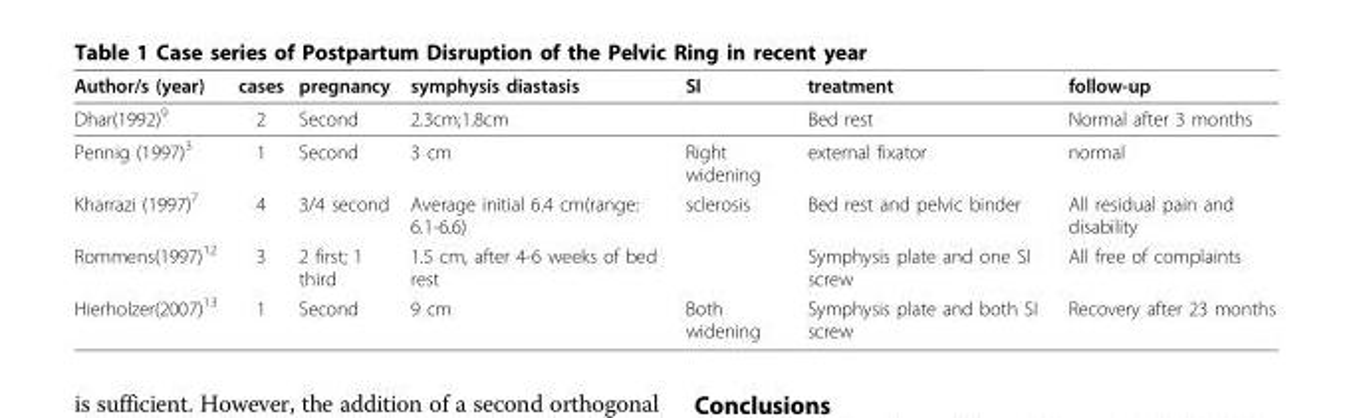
<table><thead><tr><td>Author/s (year)</td><td>cases</td><td>pregnancy</td><td>symphysis diastasis</td><td>SI</td><td>treatment</td><td>follow-up</td></tr></thead><tbody><tr><td>Dhar(1992)<sup>9</sup></td><td>2</td><td>Second</td><td>2.3cm;1.8cm</td><td></td><td>Bed rest</td><td>Normal after 3 months</td></tr><tr><td>Pennig (1997)<sup>3</sup></td><td>1</td><td>Second</td><td>3 cm</td><td>Right widening</td><td>external fixator</td><td>normal</td></tr><tr><td>Kharrazi (1997)<sup>7</sup></td><td>4</td><td>3/4 second</td><td>Average initial 6.4 cm(range: 6.1-6.6)</td><td>sclerosis</td><td>Bed rest and pelvic binder</td><td>All residual pain and disability</td></tr><tr><td>Rommens(1997)<sup>12</sup></td><td>3</td><td>2 first; 1 third</td><td>1.5 cm, after 4-6 weeks of bed rest</td><td></td><td>Symphysis plate and one SI screw</td><td>All free of complaints</td></tr><tr><td>Hierholzer(2007)<sup>13</sup></td><td>1</td><td>Second</td><td>9 cm</td><td>Both widening</td><td>Symphysis plate and both SI screw</td><td>Recovery after 23 months</td></tr></tbody></table>